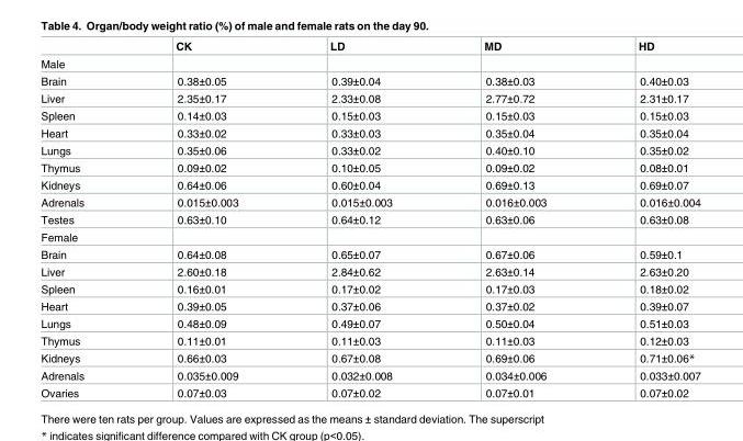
<table><thead><tr><td></td><td>CK</td><td>LD</td><td>MD</td><td>HD</td></tr></thead><tbody><tr><td colspan="5">Male</td></tr><tr><td>Brain</td><td>0.38±0.05</td><td>0.39±0.04</td><td>0.38±0.03</td><td>0.40±0.03</td></tr><tr><td>Liver</td><td>2.35±0.17</td><td>2.33±0.08</td><td>2.77±0.72</td><td>2.31±0.17</td></tr><tr><td>Spleen</td><td>0.14±0.03</td><td>0.15±0.03</td><td>0.15±0.03</td><td>0.15±0.03</td></tr><tr><td>Heart</td><td>0.33±0.02</td><td>0.33±0.03</td><td>0.35±0.04</td><td>0.35±0.04</td></tr><tr><td>Lungs</td><td>0.35±0.06</td><td>0.33±0.02</td><td>0.40±0.10</td><td>0.35±0.02</td></tr><tr><td>Thymus</td><td>0.09±0.02</td><td>0.10±0.05</td><td>0.09±0.02</td><td>0.08±0.01</td></tr><tr><td>Kidneys</td><td>0.64±0.06</td><td>0.60±0.04</td><td>0.69±0.13</td><td>0.69±0.07</td></tr><tr><td>Adrenals</td><td>0.015±0.003</td><td>0.015±0.003</td><td>0.016±0.003</td><td>0.016±0.004</td></tr><tr><td>Testes</td><td>0.63±0.10</td><td>0.64±0.12</td><td>0.63±0.06</td><td>0.63±0.08</td></tr><tr><td colspan="5">Female</td></tr><tr><td>Brain</td><td>0.64±0.08</td><td>0.65±0.07</td><td>0.67±0.06</td><td>0.59±0.1</td></tr><tr><td>Liver</td><td>2.60±0.18</td><td>2.84±0.62</td><td>2.63±0.14</td><td>2.63±0.20</td></tr><tr><td>Spleen</td><td>0.16±0.01</td><td>0.17±0.02</td><td>0.17±0.03</td><td>0.18±0.02</td></tr><tr><td>Heart</td><td>0.39±0.05</td><td>0.37±0.06</td><td>0.37±0.02</td><td>0.39±0.07</td></tr><tr><td>Lungs</td><td>0.48±0.09</td><td>0.49±0.07</td><td>0.50±0.04</td><td>0.51±0.03</td></tr><tr><td>Thymus</td><td>0.11±0.01</td><td>0.11±0.03</td><td>0.11±0.03</td><td>0.12±0.03</td></tr><tr><td>Kidneys</td><td>0.66±0.03</td><td>0.67±0.08</td><td>0.69±0.06</td><td>0.71±0.06*</td></tr><tr><td>Adrenals</td><td>0.035±0.009</td><td>0.032±0.008</td><td>0.034±0.006</td><td>0.033±0.007</td></tr><tr><td>Ovaries</td><td>0.07±0.03</td><td>0.07±0.02</td><td>0.07±0.01</td><td>0.07±0.02</td></tr></tbody></table>